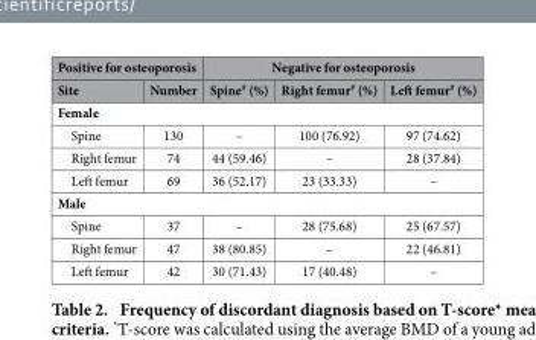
<table><thead><tr><td colspan="2">Positive for osteoporosis</td><td colspan="3">Negative for osteoporosis</td></tr><tr><td>Site</td><td>Number</td><td>Spine# (%)</td><td>Right femur# (%)</td><td>Left femur# (%)</td></tr></thead><tbody><tr><td colspan="5">Female</td></tr><tr><td>Spine</td><td>130</td><td>–</td><td>100 (76.92)</td><td>97 (74.62)</td></tr><tr><td>Right femur</td><td>74</td><td>44 (59.46)</td><td>–</td><td>28 (37.84)</td></tr><tr><td>Left femur</td><td>69</td><td>36 (52.17)</td><td>23 (33.33)</td><td>–</td></tr><tr><td colspan="5">Male</td></tr><tr><td>Spine</td><td>37</td><td>–</td><td>28 (75.68)</td><td>25 (67.57)</td></tr><tr><td>Right femur</td><td>47</td><td>38 (80.85)</td><td>–</td><td>22 (46.81)</td></tr><tr><td>Left femur</td><td>42</td><td>30 (71.43)</td><td>17 (40.48)</td><td>–</td></tr></tbody></table>